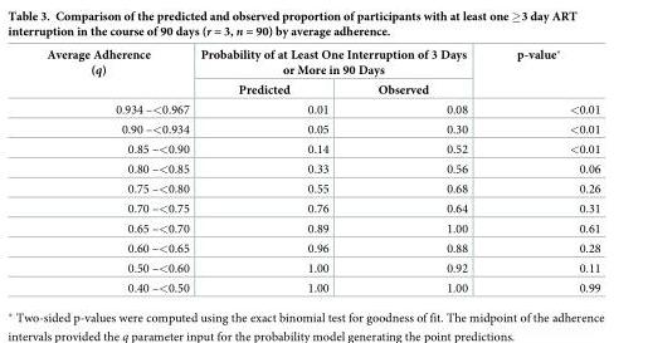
<table><thead><tr><td rowspan="2">Average Adherence (q)</td><td colspan="2">Probability of at Least One Interruption of 3 Days or More in 90 Days</td><td rowspan="2">p-value*</td></tr><tr><td>Predicted</td><td>Observed</td></tr></thead><tbody><tr><td>0.934 –&lt;0.967</td><td>0.01</td><td>0.08</td><td>&lt;0.01</td></tr><tr><td>0.90 –&lt;0.934</td><td>0.05</td><td>0.30</td><td>&lt;0.01</td></tr><tr><td>0.85 –&lt;0.90</td><td>0.14</td><td>0.52</td><td>&lt;0.01</td></tr><tr><td>0.80 –&lt;0.85</td><td>0.33</td><td>0.56</td><td>0.06</td></tr><tr><td>0.75 –&lt;0.80</td><td>0.55</td><td>0.68</td><td>0.26</td></tr><tr><td>0.70 –&lt;0.75</td><td>0.76</td><td>0.64</td><td>0.31</td></tr><tr><td>0.65 –&lt;0.70</td><td>0.89</td><td>1.00</td><td>0.61</td></tr><tr><td>0.60 –&lt;0.65</td><td>0.96</td><td>0.88</td><td>0.28</td></tr><tr><td>0.50 –&lt;0.60</td><td>1.00</td><td>0.92</td><td>0.11</td></tr><tr><td>0.40 –&lt;0.50</td><td>1.00</td><td>1.00</td><td>0.99</td></tr></tbody></table>